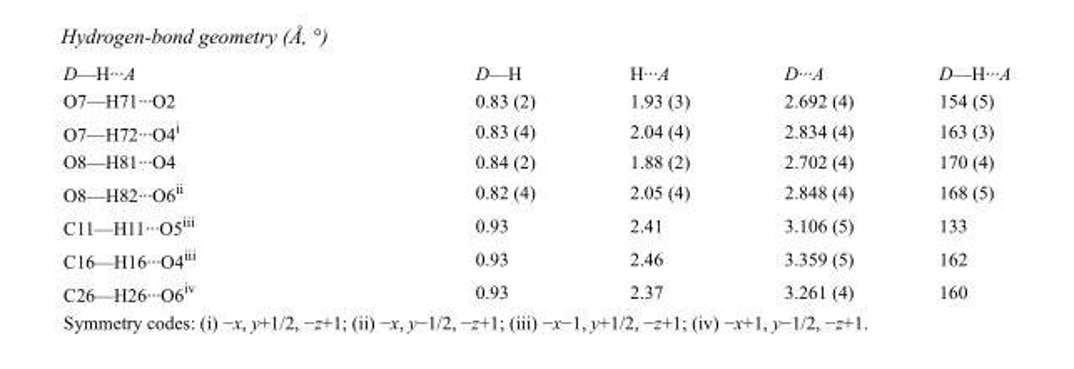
<table><tbody><tr><td>D—H···A</td><td>D—H</td><td>H···A</td><td>D···A</td><td>D—H···A</td></tr><tr><td>O7—H71···O2</td><td>0.83 (2)</td><td>1.93 (3)</td><td>2.692 (4)</td><td>154 (5)</td></tr><tr><td>O7—H72···O4<sup>i</sup></td><td>0.83 (4)</td><td>2.04 (4)</td><td>2.834 (4)</td><td>163 (3)</td></tr><tr><td>O8—H81···O4</td><td>0.84 (2)</td><td>1.88 (2)</td><td>2.702 (4)</td><td>170 (4)</td></tr><tr><td>O8—H82···O6<sup>ii</sup></td><td>0.82 (4)</td><td>2.05 (4)</td><td>2.848 (4)</td><td>168 (5)</td></tr><tr><td>C11—H11···O5<sup>iii</sup></td><td>0.93</td><td>2.41</td><td>3.106 (5)</td><td>133</td></tr><tr><td>C16—H16···O4<sup>iii</sup></td><td>0.93</td><td>2.46</td><td>3.359 (5)</td><td>162</td></tr><tr><td>C26—H26···O6<sup>iv</sup></td><td>0.93</td><td>2.37</td><td>3.261 (4)</td><td>160</td></tr></tbody></table>